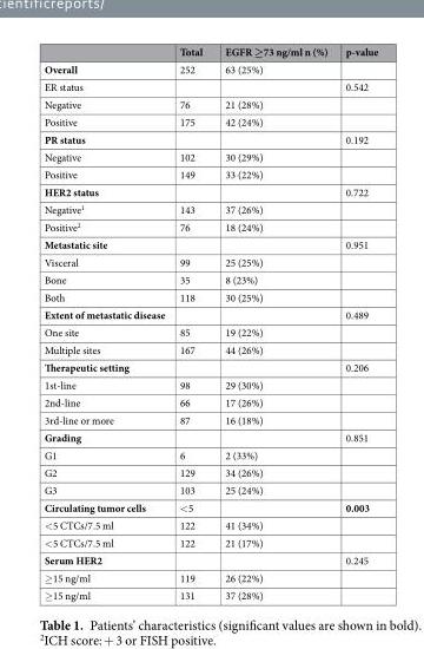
<table><thead><tr><td></td><td>Total</td><td>EGFR ≥73 ng/ml n (%)</td><td>p-value</td></tr></thead><tbody><tr><td>Overall</td><td>252</td><td>63 (25%)</td><td></td></tr><tr><td>ER status</td><td></td><td></td><td>0.542</td></tr><tr><td>Negative</td><td>76</td><td>21 (28%)</td><td></td></tr><tr><td>Positive</td><td>175</td><td>42 (24%)</td><td></td></tr><tr><td>PR status</td><td></td><td></td><td>0.192</td></tr><tr><td>Negative</td><td>102</td><td>30 (29%)</td><td></td></tr><tr><td>Positive</td><td>149</td><td>33 (22%)</td><td></td></tr><tr><td>HER2 status</td><td></td><td></td><td>0.722</td></tr><tr><td>Negative<sup>1</sup></td><td>143</td><td>37 (26%)</td><td></td></tr><tr><td>Positive<sup>2</sup></td><td>76</td><td>18 (24%)</td><td></td></tr><tr><td>Metastatic site</td><td></td><td></td><td>0.951</td></tr><tr><td>Visceral</td><td>99</td><td>25 (25%)</td><td></td></tr><tr><td>Bone</td><td>35</td><td>8 (23%)</td><td></td></tr><tr><td>Both</td><td>118</td><td>30 (25%)</td><td></td></tr><tr><td>Extent of metastatic disease</td><td></td><td></td><td>0.489</td></tr><tr><td>One site</td><td>85</td><td>19 (22%)</td><td></td></tr><tr><td>Multiple sites</td><td>167</td><td>44 (26%)</td><td></td></tr><tr><td>Therapeutic setting</td><td></td><td></td><td>0.206</td></tr><tr><td>1st-line</td><td>98</td><td>29 (30%)</td><td></td></tr><tr><td>2nd-line</td><td>66</td><td>17 (26%)</td><td></td></tr><tr><td>3rd-line or more</td><td>87</td><td>16 (18%)</td><td></td></tr><tr><td>Grading</td><td></td><td></td><td>0.851</td></tr><tr><td>G1</td><td>6</td><td>2 (33%)</td><td></td></tr><tr><td>G2</td><td>129</td><td>34 (26%)</td><td></td></tr><tr><td>G3</td><td>103</td><td>25 (24%)</td><td></td></tr><tr><td>Circulating tumor cells</td><td>&lt;5</td><td></td><td>0.003</td></tr><tr><td>&lt;5 CTCs/7.5 ml</td><td>122</td><td>41 (34%)</td><td></td></tr><tr><td>&lt;5 CTCs/7.5 ml</td><td>122</td><td>21 (17%)</td><td></td></tr><tr><td>Serum HER2</td><td></td><td></td><td>0.245</td></tr><tr><td>≥15 ng/ml</td><td>119</td><td>26 (22%)</td><td></td></tr><tr><td>≥15 ng/ml</td><td>131</td><td>37 (28%)</td><td></td></tr></tbody></table>